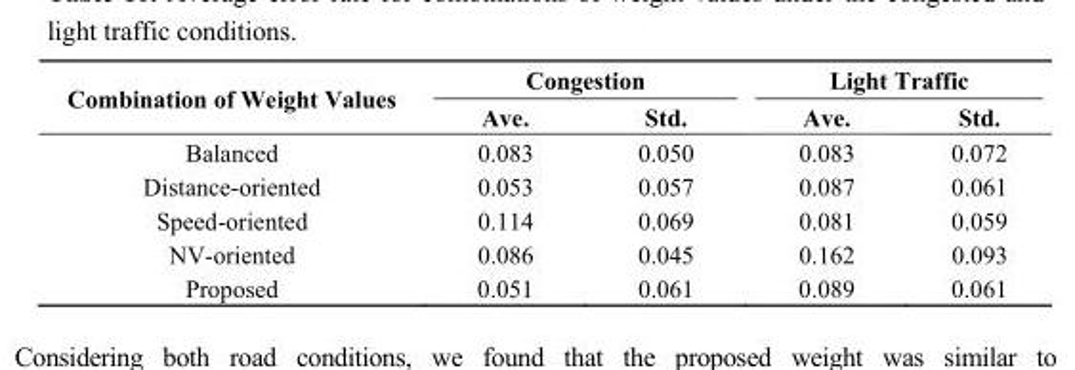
<table><thead><tr><td rowspan="2">Combination of Weight Values</td><td colspan="2">Congestion</td><td colspan="2">Light Traffic</td></tr><tr><td>Ave.</td><td>Std.</td><td>Ave.</td><td>Std.</td></tr></thead><tbody><tr><td>Balanced</td><td>0.083</td><td>0.050</td><td>0.083</td><td>0.072</td></tr><tr><td>Distance-oriented</td><td>0.053</td><td>0.057</td><td>0.087</td><td>0.061</td></tr><tr><td>Speed-oriented</td><td>0.114</td><td>0.069</td><td>0.081</td><td>0.059</td></tr><tr><td>NV-oriented</td><td>0.086</td><td>0.045</td><td>0.162</td><td>0.093</td></tr><tr><td>Proposed</td><td>0.051</td><td>0.061</td><td>0.089</td><td>0.061</td></tr></tbody></table>